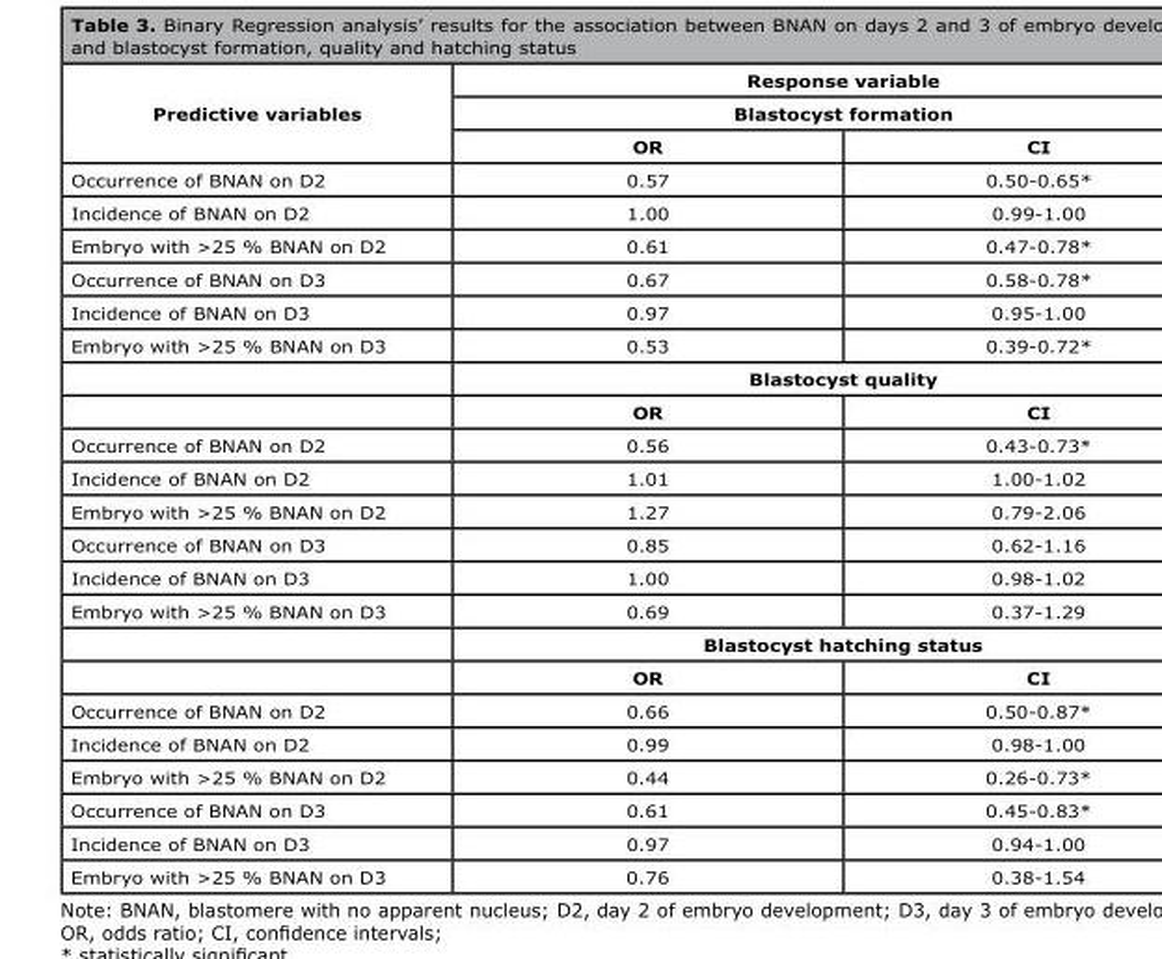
<table><thead><tr><td rowspan="3">Predictive variables</td><td rowspan="2" colspan="2">Response variable Blastocyst formation</td></tr><tr></tr><tr><td>OR</td><td>CI</td></tr></thead><tbody><tr><td>Occurrence of BNAN on D2</td><td>0.57</td><td>0.50-0.65*</td></tr><tr><td>Incidence of BNAN on D2</td><td>1.00</td><td>0.99-1.00</td></tr><tr><td>Embryo with &gt;25 % BNAN on D2</td><td>0.61</td><td>0.47-0.78*</td></tr><tr><td>Occurrence of BNAN on D3</td><td>0.67</td><td>0.58-0.78*</td></tr><tr><td>Incidence of BNAN on D3</td><td>0.97</td><td>0.95-1.00</td></tr><tr><td rowspan="3">Embryo with &gt;25 % BNAN on D3</td><td>0.53</td><td>0.39-0.72*</td></tr><tr><td colspan="2">Blastocyst quality</td></tr><tr><td>OR</td><td>CI</td></tr><tr><td>Occurrence of BNAN on D2</td><td>0.56</td><td>0.43-0.73*</td></tr><tr><td>Incidence of BNAN on D2</td><td>1.01</td><td>1.00-1.02</td></tr><tr><td>Embryo with &gt;25 % BNAN on D2</td><td>1.27</td><td>0.79-2.06</td></tr><tr><td>Occurrence of BNAN on D3</td><td>0.85</td><td>0.62-1.16</td></tr><tr><td>Incidence of BNAN on D3</td><td>1.00</td><td>0.98-1.02</td></tr><tr><td rowspan="3">Embryo with &gt;25 % BNAN on D3</td><td>0.69</td><td>0.37-1.29</td></tr><tr><td colspan="2">Blastocyst hatching status</td></tr><tr><td>OR</td><td>CI</td></tr><tr><td>Occurrence of BNAN on D2</td><td>0.66</td><td>0.50-0.87*</td></tr><tr><td>Incidence of BNAN on D2</td><td>0.99</td><td>0.98-1.00</td></tr><tr><td>Embryo with &gt;25 % BNAN on D2</td><td>0.44</td><td>0.26-0.73*</td></tr><tr><td>Occurrence of BNAN on D3</td><td>0.61</td><td>0.45-0.83*</td></tr><tr><td>Incidence of BNAN on D3</td><td>0.97</td><td>0.94-1.00</td></tr><tr><td>Embryo with &gt;25 % BNAN on D3</td><td>0.76</td><td>0.38-1.54</td></tr></tbody></table>